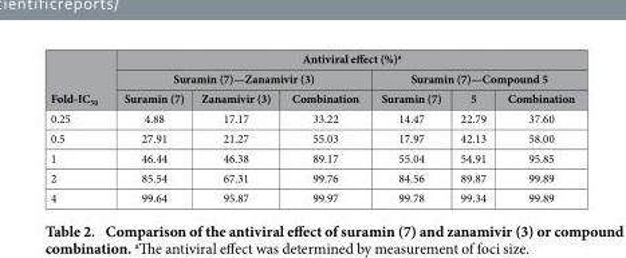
<table><thead><tr><td rowspan="3">Fold-IC<sub>50</sub></td><td colspan="6">Antiviral effect (%)<sup>a</sup></td></tr><tr><td colspan="3">Suramin (7)—Zanamivir (3)</td><td colspan="3">Suramin (7)—Compound 5</td></tr><tr><td>Suramin (7)</td><td>Zanamivir (3)</td><td>Combination</td><td>Suramin (7)</td><td>5</td><td>Combination</td></tr></thead><tbody><tr><td>0.25</td><td>4.88</td><td>17.17</td><td>33.22</td><td>14.47</td><td>22.79</td><td>37.60</td></tr><tr><td>0.5</td><td>27.91</td><td>21.27</td><td>55.03</td><td>17.97</td><td>42.13</td><td>58.00</td></tr><tr><td>1</td><td>46.44</td><td>46.38</td><td>89.17</td><td>55.04</td><td>54.91</td><td>95.85</td></tr><tr><td>2</td><td>85.54</td><td>67.31</td><td>99.76</td><td>84.56</td><td>89.87</td><td>99.89</td></tr><tr><td>4</td><td>99.64</td><td>95.87</td><td>99.97</td><td>99.78</td><td>99.34</td><td>99.89</td></tr></tbody></table>